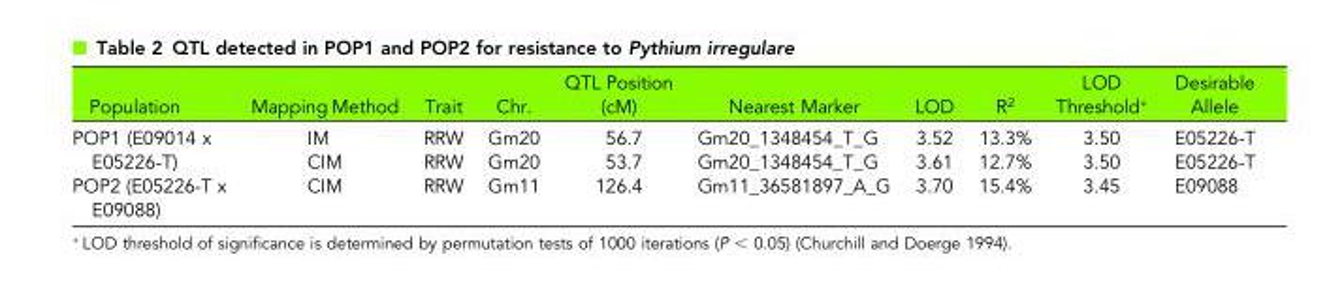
<table><thead><tr><td>Population</td><td>Mapping Method</td><td>Trait</td><td>Chr.</td><td>QTL Position (cM)</td><td>Nearest Marker</td><td>LOD</td><td>R<sup>2</sup></td><td>LOD Threshold*</td><td>Desirable Allele</td></tr></thead><tbody><tr><td rowspan="2">POP1 (E09014 x E05226-T)</td><td>IM</td><td>RRW</td><td>Gm20</td><td>56.7</td><td>Gm20_1348454_T_G</td><td>3.52</td><td>13.3%</td><td>3.50</td><td>E05226-T</td></tr><tr><td>CIM</td><td>RRW</td><td>Gm20</td><td>53.7</td><td>Gm20_1348454_T_G</td><td>3.61</td><td>12.7%</td><td>3.50</td><td>E05226-T</td></tr><tr><td>POP2 (E05226-T x E09088)</td><td>CIM</td><td>RRW</td><td>Gm11</td><td>126.4</td><td>Gm11_36581897_A_G</td><td>3.70</td><td>15.4%</td><td>3.45</td><td>E09088</td></tr></tbody></table>